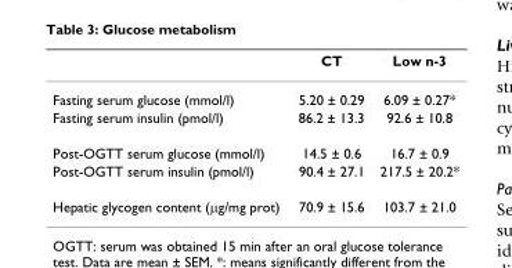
<table><thead><tr><td></td><td>CT</td><td>Low n-3</td></tr></thead><tbody><tr><td>Fasting serum glucose (mmol/l)</td><td>5.20 ± 0.29</td><td>6.09 ± 0.27*</td></tr><tr><td>Fasting serum insulin (pmol/l)</td><td>86.2 ± 13.3</td><td>92.6 ± 10.8</td></tr><tr><td>Post-OGTT serum glucose (mmol/l)</td><td>14.5 ± 0.6</td><td>16.7 ± 0.9</td></tr><tr><td>Post-OGTT serum insulin (pmol/l)</td><td>90.4 ± 27.1</td><td>217.5 ± 20.2*</td></tr><tr><td>Hepatic glycogen content (μg/mg prot)</td><td>70.9 ± 15.6</td><td>103.7 ± 21.0</td></tr></tbody></table>